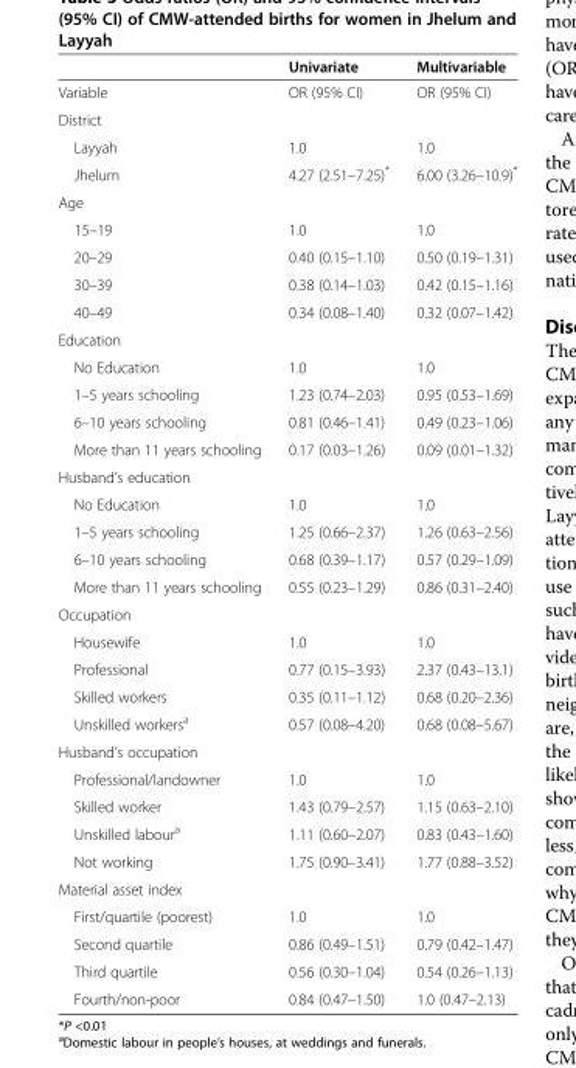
<table><thead><tr><td></td><td>Univariate</td><td>Multivariable</td></tr></thead><tbody><tr><td>Variable</td><td>OR (95% CI)</td><td>OR (95% CI)</td></tr><tr><td colspan="3">District</td></tr><tr><td>Layyah</td><td>1.0</td><td>1.0</td></tr><tr><td>Jhelum</td><td>4.27 (2.51–7.25)*</td><td>6.00 (3.26–10.9)*</td></tr><tr><td colspan="3">Age</td></tr><tr><td>15–19</td><td>1.0</td><td>1.0</td></tr><tr><td>20–29</td><td>0.40 (0.15–1.10)</td><td>0.50 (0.19–1.31)</td></tr><tr><td>30–39</td><td>0.38 (0.14–1.03)</td><td>0.42 (0.15–1.16)</td></tr><tr><td>40–49</td><td>0.34 (0.08–1.40)</td><td>0.32 (0.07–1.42)</td></tr><tr><td colspan="3">Education</td></tr><tr><td>No Education</td><td>1.0</td><td>1.0</td></tr><tr><td>1–5 years schooling</td><td>1.23 (0.74–2.03)</td><td>0.95 (0.53–1.69)</td></tr><tr><td>6–10 years schooling</td><td>0.81 (0.46–1.41)</td><td>0.49 (0.23–1.06)</td></tr><tr><td>More than 11 years schooling</td><td>0.17 (0.03–1.26)</td><td>0.09 (0.01–1.32)</td></tr><tr><td colspan="3">Husband’s education</td></tr><tr><td>No Education</td><td>1.0</td><td>1.0</td></tr><tr><td>1–5 years schooling</td><td>1.25 (0.66–2.37)</td><td>1.26 (0.63–2.56)</td></tr><tr><td>6–10 years schooling</td><td>0.68 (0.39–1.17)</td><td>0.57 (0.29–1.09)</td></tr><tr><td>More than 11 years schooling</td><td>0.55 (0.23–1.29)</td><td>0.86 (0.31–2.40)</td></tr><tr><td colspan="3">Occupation</td></tr><tr><td>Housewife</td><td>1.0</td><td>1.0</td></tr><tr><td>Professional</td><td>0.77 (0.15–3.93)</td><td>2.37 (0.43–13.1)</td></tr><tr><td>Skilled workers</td><td>0.35 (0.11–1.12)</td><td>0.68 (0.20–2.36)</td></tr><tr><td>Unskilled workers<sup>a</sup></td><td>0.57 (0.08–4.20)</td><td>0.68 (0.08–5.67)</td></tr><tr><td colspan="3">Husband’s occupation</td></tr><tr><td>Professional/landowner</td><td>1.0</td><td>1.0</td></tr><tr><td>Skilled worker</td><td>1.43 (0.79–2.57)</td><td>1.15 (0.63–2.10)</td></tr><tr><td>Unskilled labour<sup>a</sup></td><td>1.11 (0.60–2.07)</td><td>0.83 (0.43–1.60)</td></tr><tr><td>Not working</td><td>1.75 (0.90–3.41)</td><td>1.77 (0.88–3.52)</td></tr><tr><td colspan="3">Material asset index</td></tr><tr><td>First/quartile (poorest)</td><td>1.0</td><td>1.0</td></tr><tr><td>Second quartile</td><td>0.86 (0.49–1.51)</td><td>0.79 (0.42–1.47)</td></tr><tr><td>Third quartile</td><td>0.56 (0.30–1.04)</td><td>0.54 (0.26–1.13)</td></tr><tr><td>Fourth/non-poor</td><td>0.84 (0.47–1.50)</td><td>1.0 (0.47–2.13)</td></tr></tbody></table>